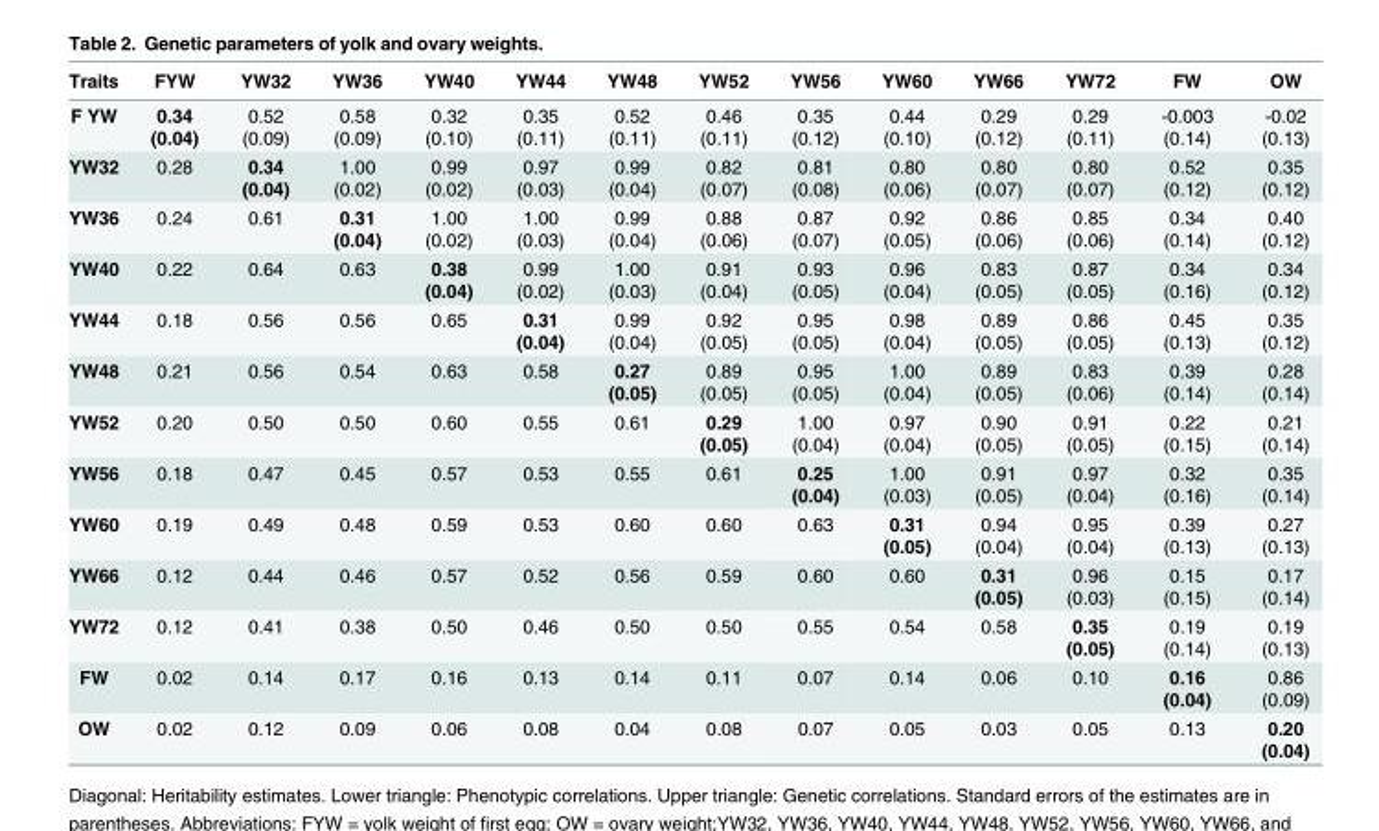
<table><thead><tr><td>Traits</td><td>FYW</td><td>YW32</td><td>YW36</td><td>YW40</td><td>YW44</td><td>YW48</td><td>YW52</td><td>YW56</td><td>YW60</td><td>YW66</td><td>YW72</td><td>FW</td><td>OW</td></tr></thead><tbody><tr><td>F YW</td><td>0.34 (0.04)</td><td>0.52 (0.09)</td><td>0.58 (0.09)</td><td>0.32 (0.10)</td><td>0.35 (0.11)</td><td>0.52 (0.11)</td><td>0.46 (0.11)</td><td>0.35 (0.12)</td><td>0.44 (0.10)</td><td>0.29 (0.12)</td><td>0.29 (0.11)</td><td>-0.003 (0.14)</td><td>-0.02 (0.13)</td></tr><tr><td>YW32</td><td>0.28</td><td>0.34 (0.04)</td><td>1.00 (0.02)</td><td>0.99 (0.02)</td><td>0.97 (0.03)</td><td>0.99 (0.04)</td><td>0.82 (0.07)</td><td>0.81 (0.08)</td><td>0.80 (0.06)</td><td>0.80 (0.07)</td><td>0.80 (0.07)</td><td>0.52 (0.12)</td><td>0.35 (0.12)</td></tr><tr><td>YW36</td><td>0.24</td><td>0.61</td><td>0.31 (0.04)</td><td>1.00 (0.02)</td><td>1.00 (0.03)</td><td>0.99 (0.04)</td><td>0.88 (0.06)</td><td>0.87 (0.07)</td><td>0.92 (0.05)</td><td>0.86 (0.06)</td><td>0.85 (0.06)</td><td>0.34 (0.14)</td><td>0.40 (0.12)</td></tr><tr><td>YW40</td><td>0.22</td><td>0.64</td><td>0.63</td><td>0.38 (0.04)</td><td>0.99 (0.02)</td><td>1.00 (0.03)</td><td>0.91 (0.04)</td><td>0.93 (0.05)</td><td>0.96 (0.04)</td><td>0.83 (0.05)</td><td>0.87 (0.05)</td><td>0.34 (0.16)</td><td>0.34 (0.12)</td></tr><tr><td>YW44</td><td>0.18</td><td>0.56</td><td>0.56</td><td>0.65</td><td>0.31 (0.04)</td><td>0.99 (0.04)</td><td>0.92 (0.05)</td><td>0.95 (0.05)</td><td>0.98 (0.04)</td><td>0.89 (0.05)</td><td>0.86 (0.05)</td><td>0.45 (0.13)</td><td>0.35 (0.12)</td></tr><tr><td>YW48</td><td>0.21</td><td>0.56</td><td>0.54</td><td>0.63</td><td>0.58</td><td>0.27 (0.05)</td><td>0.89 (0.05)</td><td>0.95 (0.05)</td><td>1.00 (0.04)</td><td>0.89 (0.05)</td><td>0.83 (0.06)</td><td>0.39 (0.14)</td><td>0.28 (0.14)</td></tr><tr><td>YW52</td><td>0.20</td><td>0.50</td><td>0.50</td><td>0.60</td><td>0.55</td><td>0.61</td><td>0.29 (0.05)</td><td>1.00 (0.04)</td><td>0.97 (0.04)</td><td>0.90 (0.05)</td><td>0.91 (0.05)</td><td>0.22 (0.15)</td><td>0.21 (0.14)</td></tr><tr><td>YW56</td><td>0.18</td><td>0.47</td><td>0.45</td><td>0.57</td><td>0.53</td><td>0.55</td><td>0.61</td><td>0.25 (0.04)</td><td>1.00 (0.03)</td><td>0.91 (0.05)</td><td>0.97 (0.04)</td><td>0.32 (0.16)</td><td>0.35 (0.14)</td></tr><tr><td>YW60</td><td>0.19</td><td>0.49</td><td>0.48</td><td>0.59</td><td>0.53</td><td>0.60</td><td>0.60</td><td>0.63</td><td>0.31 (0.05)</td><td>0.94 (0.04)</td><td>0.95 (0.04)</td><td>0.39 (0.13)</td><td>0.27 (0.13)</td></tr><tr><td>YW66</td><td>0.12</td><td>0.44</td><td>0.46</td><td>0.57</td><td>0.52</td><td>0.56</td><td>0.59</td><td>0.60</td><td>0.60</td><td>0.31 (0.05)</td><td>0.96 (0.03)</td><td>0.15 (0.15)</td><td>0.17 (0.14)</td></tr><tr><td>YW72</td><td>0.12</td><td>0.41</td><td>0.38</td><td>0.50</td><td>0.46</td><td>0.50</td><td>0.50</td><td>0.55</td><td>0.54</td><td>0.58</td><td>0.35 (0.05)</td><td>0.19 (0.14)</td><td>0.19 (0.13)</td></tr><tr><td>FW</td><td>0.02</td><td>0.14</td><td>0.17</td><td>0.16</td><td>0.13</td><td>0.14</td><td>0.11</td><td>0.07</td><td>0.14</td><td>0.06</td><td>0.10</td><td>0.16 (0.04)</td><td>0.86 (0.09)</td></tr><tr><td>OW</td><td>0.02</td><td>0.12</td><td>0.09</td><td>0.06</td><td>0.08</td><td>0.04</td><td>0.08</td><td>0.07</td><td>0.05</td><td>0.03</td><td>0.05</td><td>0.13</td><td>0.20 (0.04)</td></tr></tbody></table>